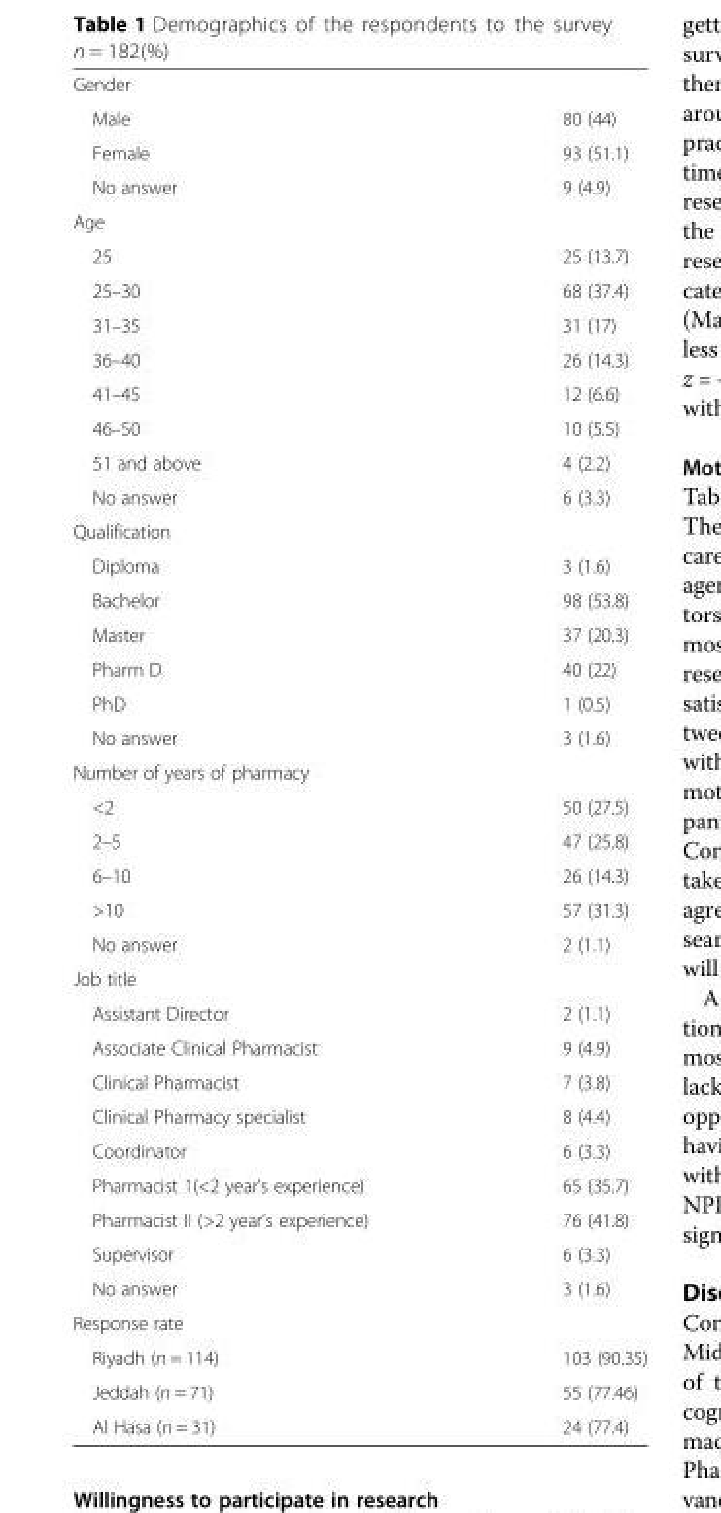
<table><tbody><tr><td colspan="2">Gender</td></tr><tr><td>Male</td><td>80 (44)</td></tr><tr><td>Female</td><td>93 (51.1)</td></tr><tr><td>No answer</td><td>9 (4.9)</td></tr><tr><td colspan="2">Age</td></tr><tr><td>25</td><td>25 (13.7)</td></tr><tr><td>25–30</td><td>68 (37.4)</td></tr><tr><td>31–35</td><td>31 (17)</td></tr><tr><td>36–40</td><td>26 (14.3)</td></tr><tr><td>41–45</td><td>12 (6.6)</td></tr><tr><td>46–50</td><td>10 (5.5)</td></tr><tr><td>51 and above</td><td>4 (2.2)</td></tr><tr><td>No answer</td><td>6 (3.3)</td></tr><tr><td colspan="2">Qualification</td></tr><tr><td>Diploma</td><td>3 (1.6)</td></tr><tr><td>Bachelor</td><td>98 (53.8)</td></tr><tr><td>Master</td><td>37 (20.3)</td></tr><tr><td>Pharm D</td><td>40 (22)</td></tr><tr><td>PhD</td><td>1 (0.5)</td></tr><tr><td>No answer</td><td>3 (1.6)</td></tr><tr><td colspan="2">Number of years of pharmacy</td></tr><tr><td>&lt;2</td><td>50 (27.5)</td></tr><tr><td>2–5</td><td>47 (25.8)</td></tr><tr><td>6–10</td><td>26 (14.3)</td></tr><tr><td>&gt;10</td><td>57 (31.3)</td></tr><tr><td>No answer</td><td>2 (1.1)</td></tr><tr><td colspan="2">Job title</td></tr><tr><td>Assistant Director</td><td>2 (1.1)</td></tr><tr><td>Associate Clinical Pharmacist</td><td>9 (4.9)</td></tr><tr><td>Clinical Pharmacist</td><td>7 (3.8)</td></tr><tr><td>Clinical Pharmacy specialist</td><td>8 (4.4)</td></tr><tr><td>Coordinator</td><td>6 (3.3)</td></tr><tr><td>Pharmacist 1(&lt;2 year’s experience)</td><td>65 (35.7)</td></tr><tr><td>Pharmacist II (&gt;2 year’s experience)</td><td>76 (41.8)</td></tr><tr><td>Supervisor</td><td>6 (3.3)</td></tr><tr><td>No answer</td><td>3 (1.6)</td></tr><tr><td colspan="2">Response rate</td></tr><tr><td>Riyadh (n = 114)</td><td>103 (90.35)</td></tr><tr><td>Jeddah (n = 71)</td><td>55 (77.46)</td></tr><tr><td>Al Hasa (n = 31)</td><td>24 (77.4)</td></tr></tbody></table>